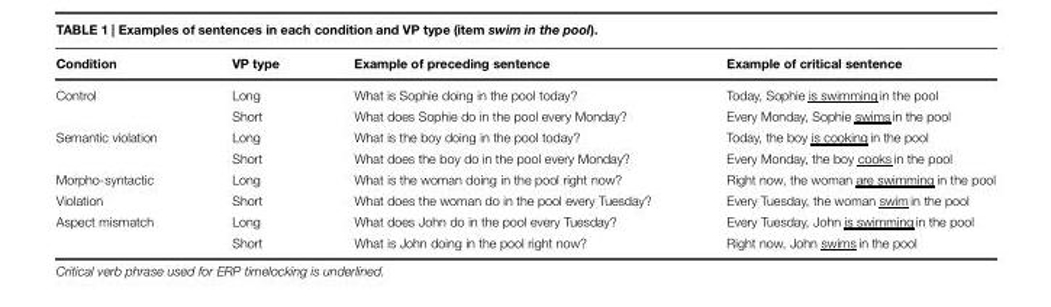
<table><thead><tr><td>Condition</td><td>VP type</td><td>Example of preceding sentence</td><td>Example of critical sentence</td></tr></thead><tbody><tr><td rowspan="2">Control</td><td>Long</td><td>What is Sophie doing in the pool today?</td><td>Today, Sophie is swimming in the pool</td></tr><tr><td>Short</td><td>What does Sophie do in the pool every Monday?</td><td>Every Monday, Sophie swims in the pool</td></tr><tr><td rowspan="2">Semantic violation</td><td>Long</td><td>What is the boy doing in the pool today?</td><td>Today, the boy is cooking in the pool</td></tr><tr><td>Short</td><td>What does the boy do in the pool every Monday?</td><td>Every Monday, the boy cooks in the pool</td></tr><tr><td>Morpho-syntactic</td><td>Long</td><td>What is the woman doing in the pool right now?</td><td>Right now, the woman are swimming in the pool</td></tr><tr><td>Violation</td><td>Short</td><td>What does the woman do in the pool every Tuesday?</td><td>Every Tuesday, the woman swim in the pool</td></tr><tr><td rowspan="2">Aspect mismatch</td><td>Long</td><td>What does John do in the pool every Tuesday?</td><td>Every Tuesday, John is swimming in the pool</td></tr><tr><td>Short</td><td>What is John doing in the pool right now?</td><td>Right now, John swims in the pool</td></tr></tbody></table>